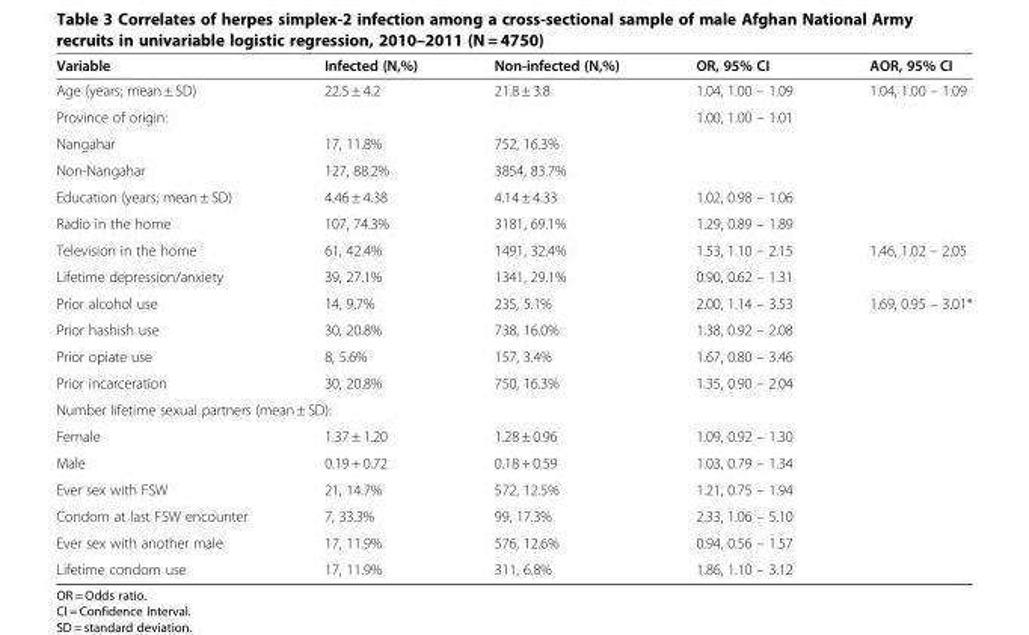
<table><thead><tr><td>Variable</td><td>Infected (N,%)</td><td>Non-infected (N,%)</td><td>OR, 95% CI</td><td>AOR, 95% CI</td></tr></thead><tbody><tr><td>Age (years; mean ± SD)</td><td>22.5 ± 4.2</td><td>21.8 ± 3.8</td><td>1.04, 1.00 – 1.09</td><td>1.04, 1.00 – 1.09</td></tr><tr><td>Province of origin:</td><td></td><td></td><td>1.00, 1.00 – 1.01</td><td></td></tr><tr><td>Nangahar</td><td>17, 11.8%</td><td>752, 16.3%</td><td></td><td></td></tr><tr><td>Non-Nangahar</td><td>127, 88.2%</td><td>3854, 83.7%</td><td></td><td></td></tr><tr><td>Education (years; mean ± SD)</td><td>4.46 ± 4.38</td><td>4.14 ± 4.33</td><td>1.02, 0.98 – 1.06</td><td></td></tr><tr><td>Radio in the home</td><td>107, 74.3%</td><td>3181, 69.1%</td><td>1.29, 0.89 – 1.89</td><td></td></tr><tr><td>Television in the home</td><td>61, 42.4%</td><td>1491, 32.4%</td><td>1.53, 1.10 – 2.15</td><td>1.46, 1.02 – 2.05</td></tr><tr><td>Lifetime depression/anxiety</td><td>39, 27.1%</td><td>1341, 29.1%</td><td>0.90, 0.62 – 1.31</td><td></td></tr><tr><td>Prior alcohol use</td><td>14, 9.7%</td><td>235, 5.1%</td><td>2.00, 1.14 – 3.53</td><td>1.69, 0.95 – 3.01*</td></tr><tr><td>Prior hashish use</td><td>30, 20.8%</td><td>738, 16.0%</td><td>1.38, 0.92 – 2.08</td><td></td></tr><tr><td>Prior opiate use</td><td>8, 5.6%</td><td>157, 3.4%</td><td>1.67, 0.80 – 3.46</td><td></td></tr><tr><td>Prior incarceration</td><td>30, 20.8%</td><td>750, 16.3%</td><td>1.35, 0.90 – 2.04</td><td></td></tr><tr><td colspan="5">Number lifetime sexual partners (mean ± SD):</td></tr><tr><td>Female</td><td>1.37 ± 1.20</td><td>1.28 ± 0.96</td><td>1.09, 0.92 – 1.30</td><td></td></tr><tr><td>Male</td><td>0.19 + 0.72</td><td>0.18 + 0.59</td><td>1.03, 0.79 – 1.34</td><td></td></tr><tr><td>Ever sex with FSW</td><td>21, 14.7%</td><td>572, 12.5%</td><td>1.21, 0.75 – 1.94</td><td></td></tr><tr><td>Condom at last FSW encounter</td><td>7, 33.3%</td><td>99, 17.3%</td><td>2.33, 1.06 – 5.10</td><td></td></tr><tr><td>Ever sex with another male</td><td>17, 11.9%</td><td>576, 12.6%</td><td>0.94, 0.56 – 1.57</td><td></td></tr><tr><td>Lifetime condom use</td><td>17, 11.9%</td><td>311, 6.8%</td><td>1.86, 1.10 – 3.12</td><td></td></tr></tbody></table>